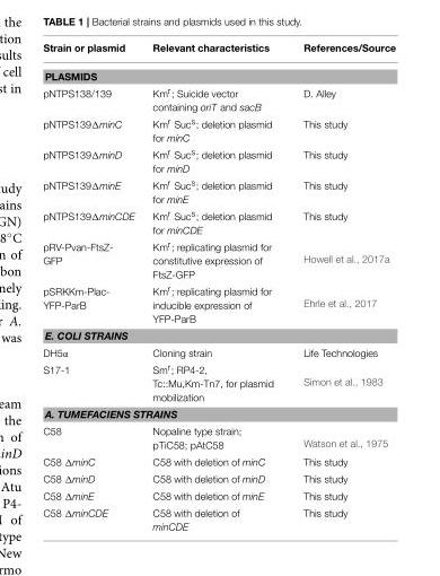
<table><thead><tr><td>Strain or plasmid</td><td>Relevant characteristics</td><td>References/Source</td></tr></thead><tbody><tr><td colspan="3">PLASMIDS</td></tr><tr><td>pNTPS138/139</td><td>Km<sup>r</sup>; Suicide vector containing oriT and sacB</td><td>D. Alley</td></tr><tr><td>pNTPS139ΔminC</td><td>Km<sup>r</sup> Suc<sup>s</sup>; deletion plasmid for minC</td><td>This study</td></tr><tr><td>pNTPS139ΔminD</td><td>Km<sup>r</sup> Suc<sup>s</sup>; deletion plasmid for minD</td><td>This study</td></tr><tr><td>pNTPS139ΔminE</td><td>Km<sup>r</sup> Suc<sup>s</sup>; deletion plasmid for minE</td><td>This study</td></tr><tr><td>pNTPS139ΔminCDE</td><td>Km<sup>r</sup> Suc<sup>s</sup>; deletion plasmid for minCDE</td><td>This study</td></tr><tr><td>pRV-Pvan-FtsZ- GFP</td><td>Km<sup>r</sup>; replicating plasmid for constitutive expression of FtsZ-GFP</td><td>Howell et al., 2017a</td></tr><tr><td>pSRKKm-Plac- YFP-ParB</td><td>Km<sup>r</sup>; replicating plasmid for inducible expression of YFP-ParB</td><td>Ehrle et al., 2017</td></tr><tr><td colspan="3">E. COLI STRAINS</td></tr><tr><td>DH5α</td><td>Cloning strain</td><td>Life Technologies</td></tr><tr><td>S17-1</td><td>Sm<sup>r</sup>; RP4-2, Tc::Mu,Km-Tn7, for plasmid mobilization</td><td>Simon et al., 1983</td></tr><tr><td colspan="3">A. TUMEFACIENS STRAINS</td></tr><tr><td>C58</td><td>Nopaline type strain; pTiC58; pAtC58</td><td>Watson et al., 1975</td></tr><tr><td>C58 ΔminC</td><td>C58 with deletion of minC</td><td>This study</td></tr><tr><td>C58 ΔminD</td><td>C58 with deletion of minD</td><td>This study</td></tr><tr><td>C58 ΔminE</td><td>C58 with deletion of minE</td><td>This study</td></tr><tr><td>C58 ΔminCDE</td><td>C58 with deletion of minCDE</td><td>This study</td></tr></tbody></table>